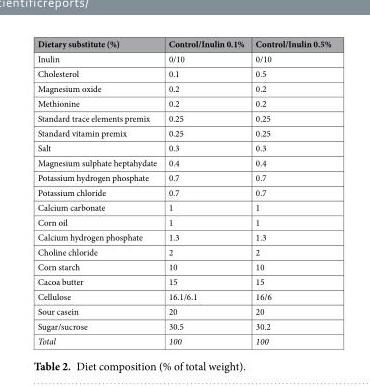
<table><thead><tr><td>Dietary substitute (%)</td><td>Control/Inulin 0.1%</td><td>Control/Inulin 0.5%</td></tr></thead><tbody><tr><td>Inulin</td><td>0/10</td><td>0/10</td></tr><tr><td>Cholesterol</td><td>0.1</td><td>0.5</td></tr><tr><td>Magnesium oxide</td><td>0.2</td><td>0.2</td></tr><tr><td>Methionine</td><td>0.2</td><td>0.2</td></tr><tr><td>Standard trace elements premix</td><td>0.25</td><td>0.25</td></tr><tr><td>Standard vitamin premix</td><td>0.25</td><td>0.25</td></tr><tr><td>Salt</td><td>0.3</td><td>0.3</td></tr><tr><td>Magnesium sulphate heptahydate</td><td>0.4</td><td>0.4</td></tr><tr><td>Potassium hydrogen phosphate</td><td>0.7</td><td>0.7</td></tr><tr><td>Potassium chloride</td><td>0.7</td><td>0.7</td></tr><tr><td>Calcium carbonate</td><td>1</td><td>1</td></tr><tr><td>Corn oil</td><td>1</td><td>1</td></tr><tr><td>Calcium hydrogen phosphate</td><td>1.3</td><td>1.3</td></tr><tr><td>Choline chloride</td><td>2</td><td>2</td></tr><tr><td>Corn starch</td><td>10</td><td>10</td></tr><tr><td>Cacoa butter</td><td>15</td><td>15</td></tr><tr><td>Cellulose</td><td>16.1/6.1</td><td>16/6</td></tr><tr><td>Sour casein</td><td>20</td><td>20</td></tr><tr><td>Sugar/sucrose</td><td>30.5</td><td>30.2</td></tr><tr><td>Total</td><td>100</td><td>100</td></tr></tbody></table>